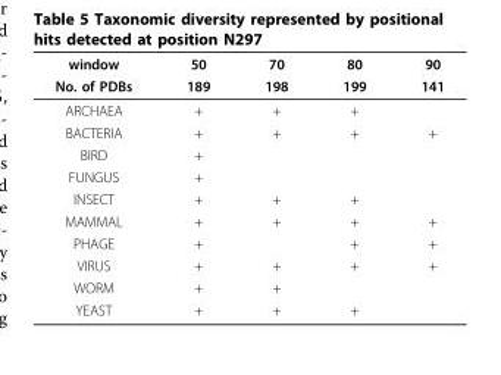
<table><thead><tr><td rowspan="2">window No. of PDBs</td><td rowspan="2">50 189</td><td rowspan="2">70 198</td><td rowspan="2">80 199</td><td rowspan="2">90 141</td></tr><tr></tr></thead><tbody><tr><td>ARCHAEA</td><td>+</td><td>+</td><td>+</td><td></td></tr><tr><td>BACTERIA</td><td>+</td><td>+</td><td>+</td><td>+</td></tr><tr><td>BIRD</td><td>+</td><td></td><td></td><td></td></tr><tr><td>FUNGUS</td><td>+</td><td></td><td></td><td></td></tr><tr><td>INSECT</td><td>+</td><td>+</td><td>+</td><td></td></tr><tr><td>MAMMAL</td><td>+</td><td>+</td><td>+</td><td>+</td></tr><tr><td>PHAGE</td><td>+</td><td></td><td>+</td><td>+</td></tr><tr><td>VIRUS</td><td>+</td><td>+</td><td>+</td><td>+</td></tr><tr><td>WORM</td><td>+</td><td>+</td><td></td><td></td></tr><tr><td>YEAST</td><td>+</td><td>+</td><td>+</td><td></td></tr></tbody></table>